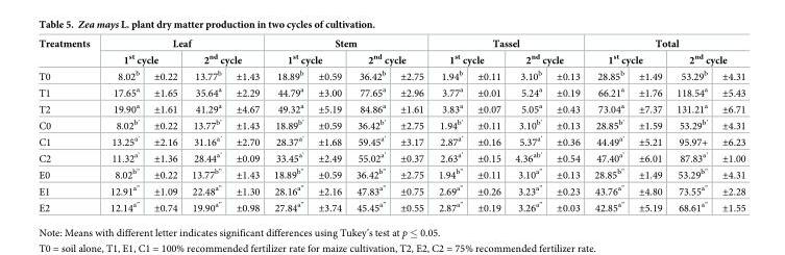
<table><thead><tr><td rowspan="3">Treatments T0</td><td colspan="4">Leaf</td><td colspan="4">Stem</td><td colspan="4">Tassel</td><td colspan="4">Total</td></tr><tr><td colspan="2">1<sup>st</sup> cycle</td><td colspan="2">2<sup>nd</sup> cycle</td><td colspan="2">1<sup>st</sup> cycle</td><td colspan="2">2<sup>nd</sup> cycle</td><td colspan="2">1<sup>st</sup> cycle</td><td colspan="2">2<sup>nd</sup> cycle</td><td colspan="2">1<sup>st</sup> cycle</td><td colspan="2">2<sup>nd</sup> cycle</td></tr><tr><td>8.02<sup>b</sup></td><td>±0.22</td><td>13.77<sup>b</sup></td><td>±1.43</td><td>18.89<sup>b</sup></td><td>±0.59</td><td>36.42<sup>b</sup></td><td>±2.75</td><td>1.94<sup>b</sup></td><td>±0.11</td><td>3.10<sup>b</sup></td><td>±0.13</td><td>28.85<sup>b</sup></td><td>±1.49</td><td>53.29<sup>b</sup></td><td>±4.31</td></tr></thead><tbody><tr><td>T1</td><td>17.65<sup>a</sup></td><td>±1.65</td><td>35.64<sup>a</sup></td><td>±2.29</td><td>44.79<sup>a</sup></td><td>±3.00</td><td>77.65<sup>a</sup></td><td>±2.96</td><td>3.77<sup>a</sup></td><td>±0.01</td><td>5.24<sup>a</sup></td><td>±0.19</td><td>66.21<sup>a</sup></td><td>±1.76</td><td>118.54<sup>a</sup></td><td>±5.43</td></tr><tr><td>T2</td><td>19.90<sup>a</sup></td><td>±1.61</td><td>41.29<sup>a</sup></td><td>±4.67</td><td>49.32<sup>a</sup></td><td>±5.19</td><td>84.86<sup>a</sup></td><td>±1.61</td><td>3.83<sup>a</sup></td><td>±0.07</td><td>5.05<sup>a</sup></td><td>±0.43</td><td>73.04<sup>a</sup></td><td>±7.37</td><td>131.21<sup>a</sup></td><td>±6.71</td></tr><tr><td>C0</td><td>8.02<sup>b’</sup></td><td>±0.22</td><td>13.77<sup>b’</sup></td><td>±1.43</td><td>18.89<sup>b’</sup></td><td>±0.59</td><td>36.42<sup>b’</sup></td><td>±2.75</td><td>1.94<sup>b’</sup></td><td>±0.11</td><td>3.10<sup>b’</sup></td><td>±0.13</td><td>28.85<sup>b’</sup></td><td>±1.59</td><td>53.29<sup>b’</sup></td><td>±4.31</td></tr><tr><td>C1</td><td>13.25<sup>a’</sup></td><td>±2.16</td><td>31.16<sup>a’</sup></td><td>±2.70</td><td>28.37<sup>a’</sup></td><td>±1.68</td><td>59.45<sup>a’</sup></td><td>±3.17</td><td>2.87<sup>a’</sup></td><td>±0.16</td><td>5.37<sup>a’</sup></td><td>±0.36</td><td>44.49<sup>a’</sup></td><td>±5.21</td><td>95.97+</td><td>±6.23</td></tr><tr><td>C2</td><td>11.32<sup>a’</sup></td><td>±1.36</td><td>28.44<sup>a’</sup></td><td>±0.09</td><td>33.45<sup>a’</sup></td><td>±2.49</td><td>55.02<sup>a’</sup></td><td>±0.37</td><td>2.63<sup>a’</sup></td><td>±0.15</td><td>4.36<sup>ab’</sup></td><td>±0.54</td><td>47.40<sup>a’</sup></td><td>±6.01</td><td>87.83<sup>a’</sup></td><td>±1.00</td></tr><tr><td>E0</td><td>8.02<sup>b”</sup></td><td>±0.22</td><td>13.77<sup>b”</sup></td><td>±1.43</td><td>18.89<sup>b”</sup></td><td>±0.59</td><td>36.42<sup>b”</sup></td><td>±2.75</td><td>1.94<sup>b”</sup></td><td>±0.11</td><td>3.10<sup>a”</sup></td><td>±0.13</td><td>28.85<sup>b”</sup></td><td>±1.49</td><td>53.29<sup>b”</sup></td><td>±4.31</td></tr><tr><td>E1</td><td>12.91<sup>a”</sup></td><td>±1.09</td><td>22.48<sup>a”</sup></td><td>±1.30</td><td>28.16<sup>a”</sup></td><td>±2.16</td><td>47.83<sup>a”</sup></td><td>±0.75</td><td>2.69<sup>a”</sup></td><td>±0.26</td><td>3.23<sup>a”</sup></td><td>±0.23</td><td>43.76<sup>a”</sup></td><td>±4.80</td><td>73.55<sup>a”</sup></td><td>±2.28</td></tr><tr><td>E2</td><td>12.14<sup>a”</sup></td><td>±0.74</td><td>19.90<sup>a”</sup></td><td>±0.98</td><td>27.84<sup>a”</sup></td><td>±3.74</td><td>45.45<sup>a”</sup></td><td>±0.55</td><td>2.87<sup>a”</sup></td><td>±0.19</td><td>3.26<sup>a”</sup></td><td>±0.03</td><td>42.85<sup>a”</sup></td><td>±5.19</td><td>68.61<sup>a”</sup></td><td>±1.55</td></tr></tbody></table>